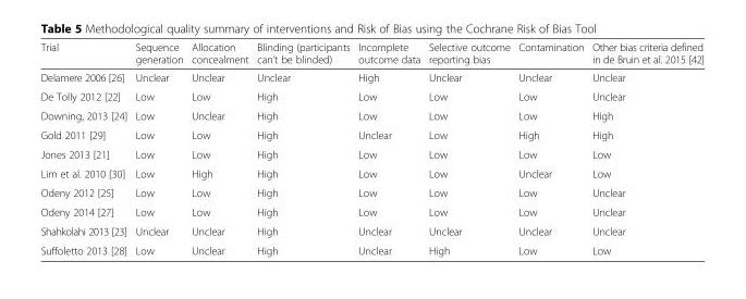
<table><thead><tr><td>Trial</td><td>Sequence generation</td><td>Allocation concealment</td><td>Blinding (participants can’t be blinded)</td><td>Incomplete outcome data</td><td>Selective outcome reporting bias</td><td>Contamination</td><td>Other bias criteria defined in de Bruin et al. 2015 [42]</td></tr></thead><tbody><tr><td>Delamere 2006 [26]</td><td>Unclear</td><td>Unclear</td><td>Unclear</td><td>High</td><td>Unclear</td><td>Unclear</td><td>Unclear</td></tr><tr><td>De Tolly 2012 [22]</td><td>Low</td><td>Low</td><td>High</td><td>Low</td><td>Low</td><td>Low</td><td>Unclear</td></tr><tr><td>Downing, 2013 [24]</td><td>Low</td><td>Unclear</td><td>High</td><td>Low</td><td>Low</td><td>Low</td><td>High</td></tr><tr><td>Gold 2011 [29]</td><td>Low</td><td>Low</td><td>High</td><td>Unclear</td><td>Low</td><td>High</td><td>High</td></tr><tr><td>Jones 2013 [21]</td><td>Low</td><td>Low</td><td>High</td><td>Low</td><td>Low</td><td>Low</td><td>Low</td></tr><tr><td>Lim et al. 2010 [30]</td><td>Low</td><td>High</td><td>High</td><td>Low</td><td>Low</td><td>Unclear</td><td>Low</td></tr><tr><td>Odeny 2012 [25]</td><td>Low</td><td>Low</td><td>High</td><td>Low</td><td>Low</td><td>Low</td><td>Unclear</td></tr><tr><td>Odeny 2014 [27]</td><td>Low</td><td>Low</td><td>High</td><td>Low</td><td>Low</td><td>Low</td><td>Unclear</td></tr><tr><td>Shahkolahi 2013 [23]</td><td>Unclear</td><td>Unclear</td><td>High</td><td>Unclear</td><td>Unclear</td><td>Unclear</td><td>Unclear</td></tr><tr><td>Suffoletto 2013 [28]</td><td>Low</td><td>Unclear</td><td>High</td><td>Unclear</td><td>High</td><td>Low</td><td>Low</td></tr></tbody></table>